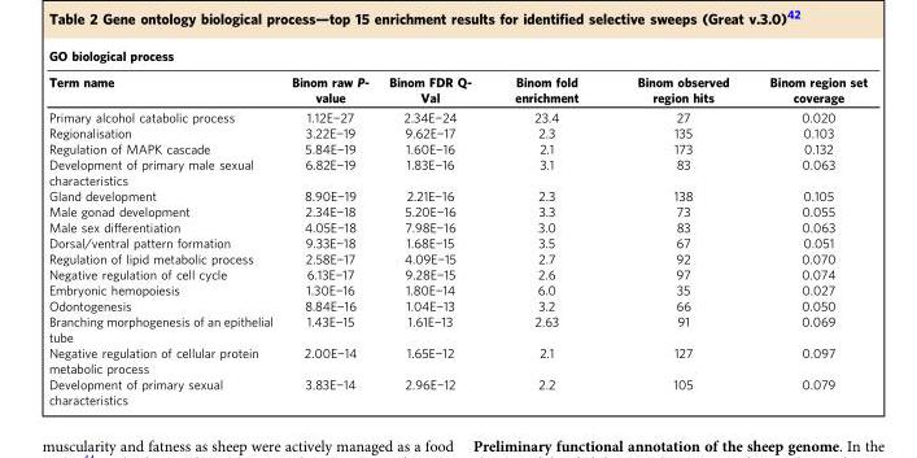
<table><thead><tr><td colspan="6">GO biological process</td></tr><tr><td>Term name</td><td>Binom raw P- value</td><td>Binom FDR Q- Val</td><td>Binom fold enrichment</td><td>Binom observed region hits</td><td>Binom region set coverage</td></tr></thead><tbody><tr><td>Primary alcohol catabolic process</td><td>1.12E−27</td><td>2.34E−24</td><td>23.4</td><td>27</td><td>0.020</td></tr><tr><td>Regionalisation</td><td>3.22E−19</td><td>9.62E−17</td><td>2.3</td><td>135</td><td>0.103</td></tr><tr><td>Regulation of MAPK cascade</td><td>5.84E−19</td><td>1.60E−16</td><td>2.1</td><td>173</td><td>0.132</td></tr><tr><td>Development of primary male sexual characteristics</td><td>6.82E−19</td><td>1.83E−16</td><td>3.1</td><td>83</td><td>0.063</td></tr><tr><td>Gland development</td><td>8.90E−19</td><td>2.21E−16</td><td>2.3</td><td>138</td><td>0.105</td></tr><tr><td>Male gonad development</td><td>2.34E−18</td><td>5.20E−16</td><td>3.3</td><td>73</td><td>0.055</td></tr><tr><td>Male sex differentiation</td><td>4.05E−18</td><td>7.98E−16</td><td>3.0</td><td>83</td><td>0.063</td></tr><tr><td>Dorsal/ventral pattern formation</td><td>9.33E−18</td><td>1.68E−15</td><td>3.5</td><td>67</td><td>0.051</td></tr><tr><td>Regulation of lipid metabolic process</td><td>2.58E−17</td><td>4.09E−15</td><td>2.7</td><td>92</td><td>0.070</td></tr><tr><td>Negative regulation of cell cycle</td><td>6.13E−17</td><td>9.28E−15</td><td>2.6</td><td>97</td><td>0.074</td></tr><tr><td>Embryonic hemopoiesis</td><td>1.30E−16</td><td>1.80E−14</td><td>6.0</td><td>35</td><td>0.027</td></tr><tr><td>Odontogenesis</td><td>8.84E−16</td><td>1.04E−13</td><td>3.2</td><td>66</td><td>0.050</td></tr><tr><td>Branching morphogenesis of an epithelial tube</td><td>1.43E−15</td><td>1.61E−13</td><td>2.63</td><td>91</td><td>0.069</td></tr><tr><td>Negative regulation of cellular protein metabolic process</td><td>2.00E−14</td><td>1.65E−12</td><td>2.1</td><td>127</td><td>0.097</td></tr><tr><td>Development of primary sexual characteristics</td><td>3.83E−14</td><td>2.96E−12</td><td>2.2</td><td>105</td><td>0.079</td></tr></tbody></table>